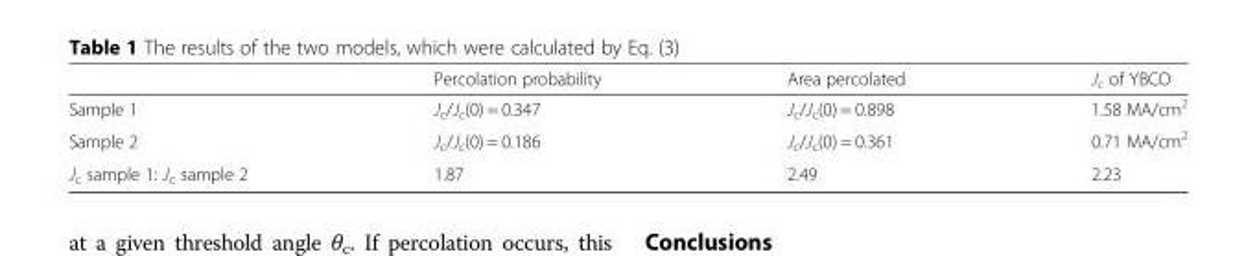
<table><thead><tr><td></td><td>Percolation probability</td><td>Area percolated</td><td>J<sub>c</sub> of YBCO</td></tr></thead><tbody><tr><td>Sample 1</td><td>J<sub>c</sub>/J<sub>c</sub>(0) = 0.347</td><td>J<sub>c</sub>/J<sub>c</sub>(0) = 0.898</td><td>1.58 MA/cm<sup>2</sup></td></tr><tr><td>Sample 2</td><td>J<sub>c</sub>/J<sub>c</sub>(0) = 0.186</td><td>J<sub>c</sub>/J<sub>c</sub>(0) = 0.361</td><td>0.71 MA/cm<sup>2</sup></td></tr><tr><td>J<sub>c</sub> sample 1: J<sub>c</sub> sample 2</td><td>1.87</td><td>2.49</td><td>2.23</td></tr></tbody></table>